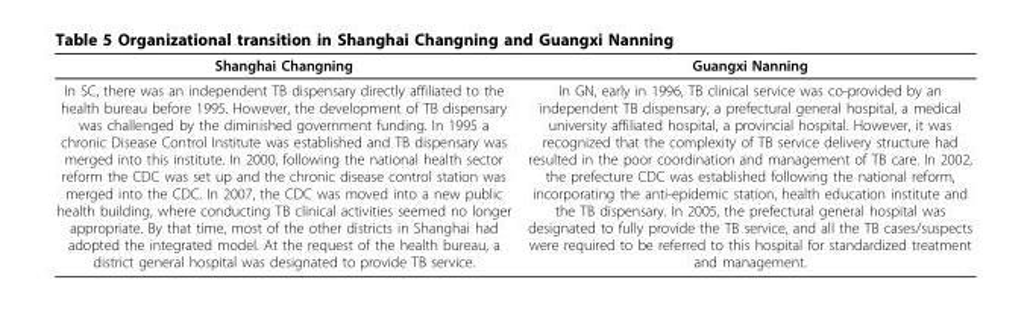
<table><thead><tr><td>Shanghai Changning</td><td>Guangxi Nanning</td></tr></thead><tbody><tr><td>In SC, there was an independent TB dispensary directly affiliated to the health bureau before 1995. However, the development of TB dispensary was challenged by the diminished government funding. In 1995 a chronic Disease Control Institute was established and TB dispensary was merged into this institute. In 2000, following the national health sector reform the CDC was set up and the chronic disease control station was merged into the CDC. In 2007, the CDC was moved into a new public health building, where conducting TB clinical activities seemed no longer appropriate. By that time, most of the other districts in Shanghai had adopted the integrated model. At the request of the health bureau, a district general hospital was designated to provide TB service.</td><td>In GN, early in 1996, TB clinical service was co-provided by an independent TB dispensary, a prefectural general hospital, a medical university affiliated hospital, a provincial hospital. However, it was recognized that the complexity of TB service delivery structure had resulted in the poor coordination and management of TB care. In 2002, the prefecture CDC was established following the national reform, incorporating the anti-epidemic station, health education institute and the TB dispensary. In 2005, the prefectural general hospital was designated to fully provide the TB service, and all the TB cases/suspects were required to be referred to this hospital for standardized treatment and management.</td></tr></tbody></table>